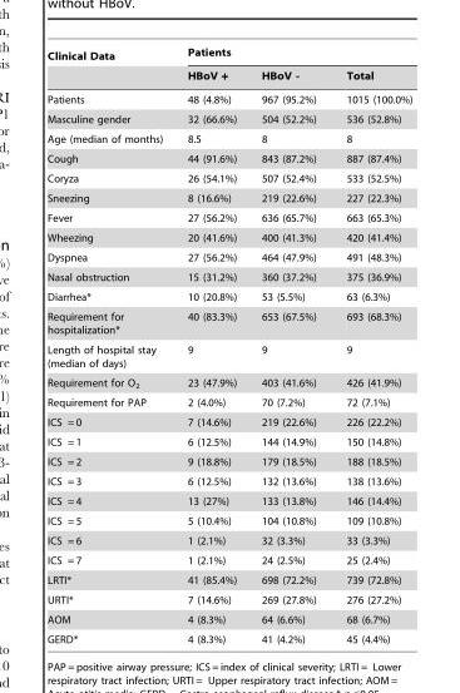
<table><thead><tr><td rowspan="2">Clinical Data</td><td colspan="3">Patients</td></tr><tr><td>HBoV +</td><td>HBoV -</td><td>Total</td></tr></thead><tbody><tr><td>Patients</td><td>48 (4.8%)</td><td>967 (95.2%)</td><td>1015 (100.0%)</td></tr><tr><td>Masculine gender</td><td>32 (66.6%)</td><td>504 (52.2%)</td><td>536 (52.8%)</td></tr><tr><td>Age (median of months)</td><td>8.5</td><td>8</td><td>8</td></tr><tr><td>Cough</td><td>44 (91.6%)</td><td>843 (87.2%)</td><td>887 (87.4%)</td></tr><tr><td>Coryza</td><td>26 (54.1%)</td><td>507 (52.4%)</td><td>533 (52.5%)</td></tr><tr><td>Sneezing</td><td>8 (16.6%)</td><td>219 (22.6%)</td><td>227 (22.3%)</td></tr><tr><td>Fever</td><td>27 (56.2%)</td><td>636 (65.7%)</td><td>663 (65.3%)</td></tr><tr><td>Wheezing</td><td>20 (41.6%)</td><td>400 (41.3%)</td><td>420 (41.4%)</td></tr><tr><td>Dyspnea</td><td>27 (56.2%)</td><td>464 (47.9%)</td><td>491 (48.3%)</td></tr><tr><td>Nasal obstruction</td><td>15 (31.2%)</td><td>360 (37.2%)</td><td>375 (36.9%)</td></tr><tr><td>Diarrhea*</td><td>10 (20.8%)</td><td>53 (5.5%)</td><td>63 (6.3%)</td></tr><tr><td>Requirement for hospitalization*</td><td>40 (83.3%)</td><td>653 (67.5%)</td><td>693 (68.3%)</td></tr><tr><td>Length of hospital stay (median of days)</td><td>9</td><td>9</td><td>9</td></tr><tr><td>Requirement for O<sub>2</sub></td><td>23 (47.9%)</td><td>403 (41.6%)</td><td>426 (41.9%)</td></tr><tr><td>Requirement for PAP</td><td>2 (4.0%)</td><td>70 (7.2%)</td><td>72 (7.1%)</td></tr><tr><td>ICS = 0</td><td>7 (14.6%)</td><td>219 (22.6%)</td><td>226 (22.2%)</td></tr><tr><td>ICS = 1</td><td>6 (12.5%)</td><td>144 (14.9%)</td><td>150 (14.8%)</td></tr><tr><td>ICS = 2</td><td>9 (18.8%)</td><td>179 (18.5%)</td><td>188 (18.5%)</td></tr><tr><td>ICS = 3</td><td>6 (12.5%)</td><td>132 (13.6%)</td><td>138 (13.6%)</td></tr><tr><td>ICS = 4</td><td>13 (27%)</td><td>133 (13.8%)</td><td>146 (14.4%)</td></tr><tr><td>ICS = 5</td><td>5 (10.4%)</td><td>104 (10.8%)</td><td>109 (10.8%)</td></tr><tr><td>ICS = 6</td><td>1 (2.1%)</td><td>32 (3.3%)</td><td>33 (3.3%)</td></tr><tr><td>ICS = 7</td><td>1 (2.1%)</td><td>24 (2.5%)</td><td>25 (2.4%)</td></tr><tr><td>LRTI*</td><td>41 (85.4%)</td><td>698 (72.2%)</td><td>739 (72.8%)</td></tr><tr><td>URTI*</td><td>7 (14.6%)</td><td>269 (27.8%)</td><td>276 (27.2%)</td></tr><tr><td>AOM</td><td>4 (8.3%)</td><td>64 (6.6%)</td><td>68 (6.7%)</td></tr><tr><td>GERD*</td><td>4 (8.3%)</td><td>41 (4.2%)</td><td>45 (4.4%)</td></tr></tbody></table>